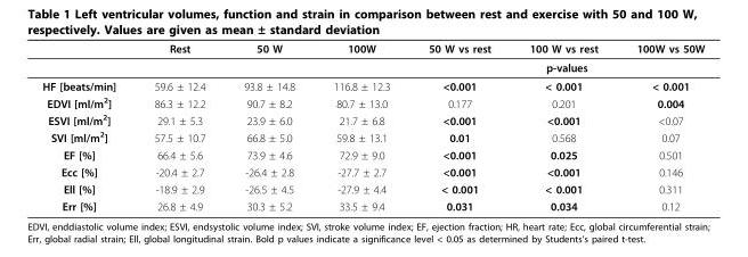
<table><thead><tr><td rowspan="2"></td><td rowspan="2">Rest</td><td rowspan="2">50 W</td><td rowspan="2">100W</td><td>50 W vs rest</td><td>100 W vs rest</td><td>100W vs 50W</td></tr><tr><td colspan="3">p-values</td></tr></thead><tbody><tr><td>HF [beats/min]</td><td>59.6 ± 12.4</td><td>93.8 ± 14.8</td><td>116.8 ± 12.3</td><td>&lt;0.001</td><td>&lt; 0.001</td><td>&lt; 0.001</td></tr><tr><td>EDVI [ml/m<sup>2</sup>]</td><td>86.3 ± 12.2</td><td>90.7 ± 8.2</td><td>80.7 ± 13.0</td><td>0.177</td><td>0.201</td><td>0.004</td></tr><tr><td>ESVI [ml/m<sup>2</sup>]</td><td>29.1 ± 5.3</td><td>23.9 ± 6.0</td><td>21.7 ± 6.8</td><td>&lt;0.001</td><td>&lt;0.001</td><td>&lt;0.07</td></tr><tr><td>SVI [ml/m<sup>2</sup>]</td><td>57.5 ± 10.7</td><td>66.8 ± 5.0</td><td>59.8 ± 13.1</td><td>0.01</td><td>0.568</td><td>0.07</td></tr><tr><td>EF [%]</td><td>66.4 ± 5.6</td><td>73.9 ± 4.6</td><td>72.9 ± 9.0</td><td>&lt;0.001</td><td>0.025</td><td>0.501</td></tr><tr><td>Ecc [%]</td><td>-20.4 ± 2.7</td><td>-26.4 ± 2.8</td><td>-27.7 ± 2.7</td><td>&lt;0.001</td><td>&lt;0.001</td><td>0.146</td></tr><tr><td>Ell [%]</td><td>-18.9 ± 2.9</td><td>-26.5 ± 4.5</td><td>-27.9 ± 4.4</td><td>&lt; 0.001</td><td>&lt; 0.001</td><td>0.311</td></tr><tr><td>Err [%]</td><td>26.8 ± 4.9</td><td>30.3 ± 5.2</td><td>33.5 ± 9.4</td><td>0.031</td><td>0.034</td><td>0.12</td></tr></tbody></table>